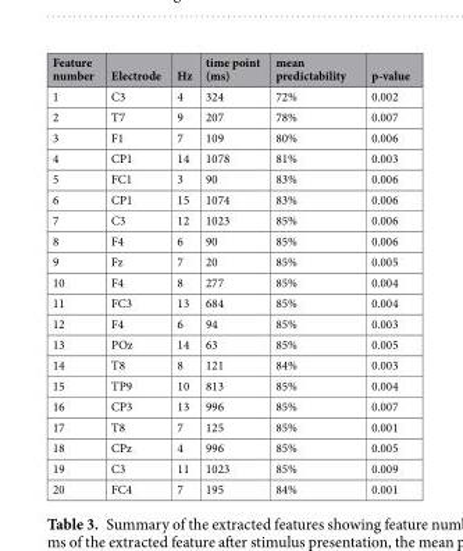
<table><thead><tr><td>Feature number</td><td>Electrode</td><td>Hz</td><td>time point (ms)</td><td>mean predictability</td><td>p-value</td></tr></thead><tbody><tr><td>1</td><td>C3</td><td>4</td><td>324</td><td>72%</td><td>0.002</td></tr><tr><td>2</td><td>T7</td><td>9</td><td>207</td><td>78%</td><td>0.007</td></tr><tr><td>3</td><td>F1</td><td>7</td><td>109</td><td>80%</td><td>0.006</td></tr><tr><td>4</td><td>CP1</td><td>14</td><td>1078</td><td>81%</td><td>0.003</td></tr><tr><td>5</td><td>FC1</td><td>3</td><td>90</td><td>83%</td><td>0.006</td></tr><tr><td>6</td><td>CP1</td><td>15</td><td>1074</td><td>83%</td><td>0.006</td></tr><tr><td>7</td><td>C3</td><td>12</td><td>1023</td><td>85%</td><td>0.006</td></tr><tr><td>8</td><td>F4</td><td>6</td><td>90</td><td>85%</td><td>0.006</td></tr><tr><td>9</td><td>Fz</td><td>7</td><td>20</td><td>85%</td><td>0.005</td></tr><tr><td>10</td><td>F4</td><td>8</td><td>277</td><td>85%</td><td>0.004</td></tr><tr><td>11</td><td>FC3</td><td>13</td><td>684</td><td>85%</td><td>0.004</td></tr><tr><td>12</td><td>F4</td><td>6</td><td>94</td><td>85%</td><td>0.003</td></tr><tr><td>13</td><td>POz</td><td>14</td><td>63</td><td>85%</td><td>0.005</td></tr><tr><td>14</td><td>T8</td><td>8</td><td>121</td><td>84%</td><td>0.003</td></tr><tr><td>15</td><td>TP9</td><td>10</td><td>813</td><td>85%</td><td>0.004</td></tr><tr><td>16</td><td>CP3</td><td>13</td><td>996</td><td>85%</td><td>0.007</td></tr><tr><td>17</td><td>T8</td><td>7</td><td>125</td><td>85%</td><td>0.001</td></tr><tr><td>18</td><td>CPz</td><td>4</td><td>996</td><td>85%</td><td>0.005</td></tr><tr><td>19</td><td>C3</td><td>11</td><td>1023</td><td>85%</td><td>0.009</td></tr><tr><td>20</td><td>FC4</td><td>7</td><td>195</td><td>84%</td><td>0.001</td></tr></tbody></table>